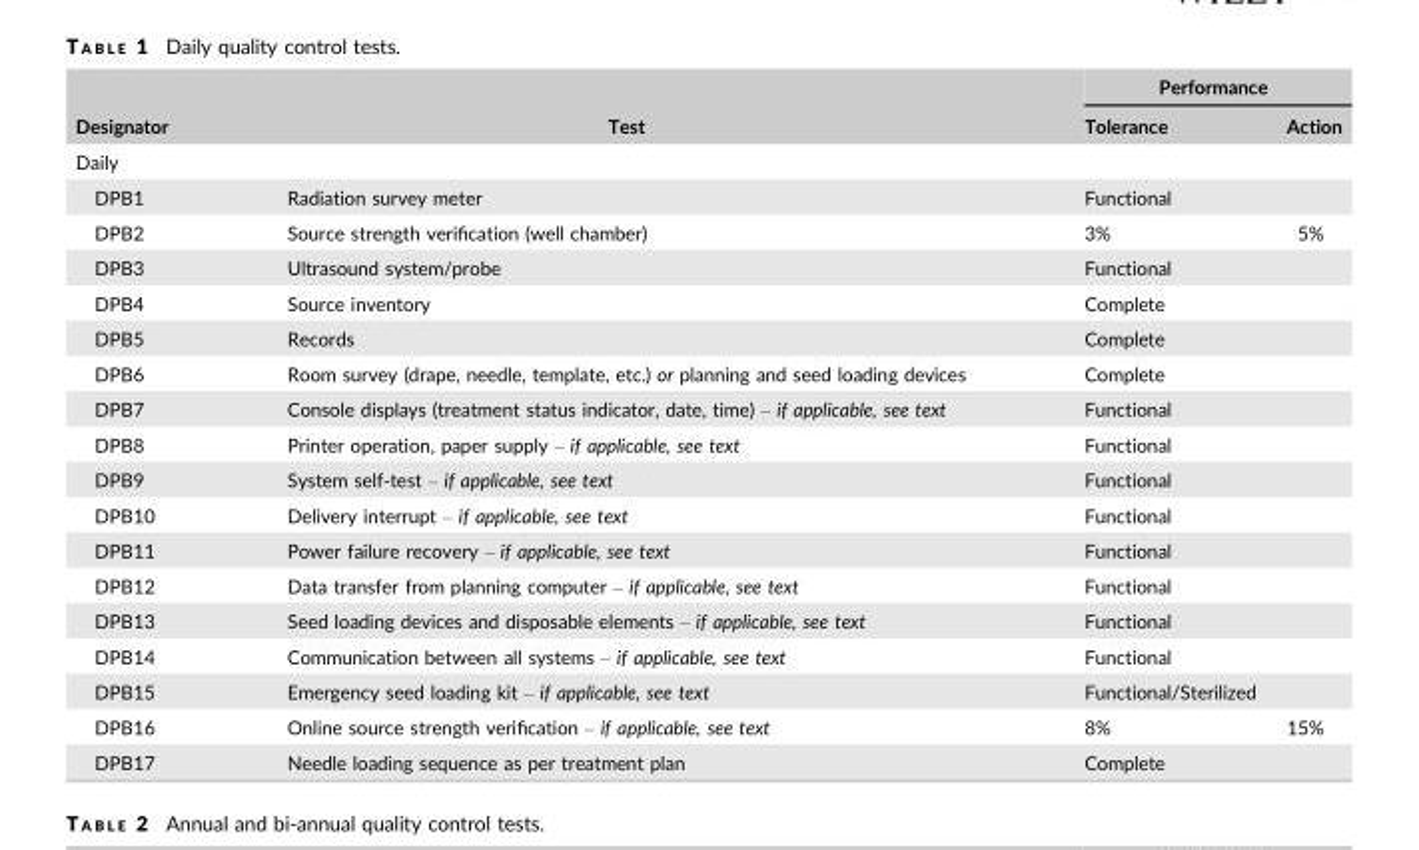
<table><thead><tr><td rowspan="2">Designator</td><td rowspan="2">Test</td><td colspan="2">Performance</td></tr><tr><td>Tolerance</td><td>Action</td></tr></thead><tbody><tr><td colspan="4">Daily</td></tr><tr><td>DPB1</td><td>Radiation survey meter</td><td colspan="2">Functional</td></tr><tr><td>DPB2</td><td>Source strength verification (well chamber)</td><td>3%</td><td>5%</td></tr><tr><td>DPB3</td><td>Ultrasound system/probe</td><td colspan="2">Functional</td></tr><tr><td>DPB4</td><td>Source inventory</td><td colspan="2">Complete</td></tr><tr><td>DPB5</td><td>Records</td><td colspan="2">Complete</td></tr><tr><td>DPB6</td><td>Room survey (drape, needle, template, etc.) or planning and seed loading devices</td><td colspan="2">Complete</td></tr><tr><td>DPB7</td><td>Console displays (treatment status indicator, date, time) – if applicable, see text</td><td colspan="2">Functional</td></tr><tr><td>DPB8</td><td>Printer operation, paper supply – if applicable, see text</td><td colspan="2">Functional</td></tr><tr><td>DPB9</td><td>System self-test – if applicable, see text</td><td colspan="2">Functional</td></tr><tr><td>DPB10</td><td>Delivery interrupt – if applicable, see text</td><td colspan="2">Functional</td></tr><tr><td>DPB11</td><td>Power failure recovery – if applicable, see text</td><td colspan="2">Functional</td></tr><tr><td>DPB12</td><td>Data transfer from planning computer – if applicable, see text</td><td colspan="2">Functional</td></tr><tr><td>DPB13</td><td>Seed loading devices and disposable elements – if applicable, see text</td><td colspan="2">Functional</td></tr><tr><td>DPB14</td><td>Communication between all systems – if applicable, see text</td><td colspan="2">Functional</td></tr><tr><td>DPB15</td><td>Emergency seed loading kit – if applicable, see text</td><td colspan="2">Functional/Sterilized</td></tr><tr><td>DPB16</td><td>Online source strength verification – if applicable, see text</td><td>8%</td><td>15%</td></tr><tr><td>DPB17</td><td>Needle loading sequence as per treatment plan</td><td colspan="2">Complete</td></tr></tbody></table>